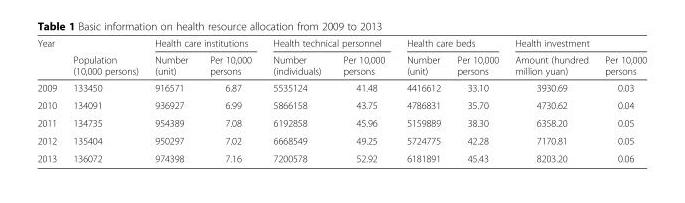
<table><thead><tr><td rowspan="2">Year</td><td rowspan="2">Population (10,000 persons)</td><td colspan="2">Health care institutions</td><td colspan="2">Health technical personnel</td><td colspan="2">Health care beds</td><td colspan="2">Health investment</td></tr><tr><td>Number (unit)</td><td>Per 10,000 persons</td><td>Number (individuals)</td><td>Per 10,000 persons</td><td>Number (unit)</td><td>Per 10,000 persons</td><td>Amount (hundred million yuan)</td><td>Per 10,000 persons</td></tr></thead><tbody><tr><td>2009</td><td>133450</td><td>916571</td><td>6.87</td><td>5535124</td><td>41.48</td><td>4416612</td><td>33.10</td><td>3930.69</td><td>0.03</td></tr><tr><td>2010</td><td>134091</td><td>936927</td><td>6.99</td><td>5866158</td><td>43.75</td><td>4786831</td><td>35.70</td><td>4730.62</td><td>0.04</td></tr><tr><td>2011</td><td>134735</td><td>954389</td><td>7.08</td><td>6192858</td><td>45.96</td><td>5159889</td><td>38.30</td><td>6358.20</td><td>0.05</td></tr><tr><td>2012</td><td>135404</td><td>950297</td><td>7.02</td><td>6668549</td><td>49.25</td><td>5724775</td><td>42.28</td><td>7170.81</td><td>0.05</td></tr><tr><td>2013</td><td>136072</td><td>974398</td><td>7.16</td><td>7200578</td><td>52.92</td><td>6181891</td><td>45.43</td><td>8203.20</td><td>0.06</td></tr></tbody></table>